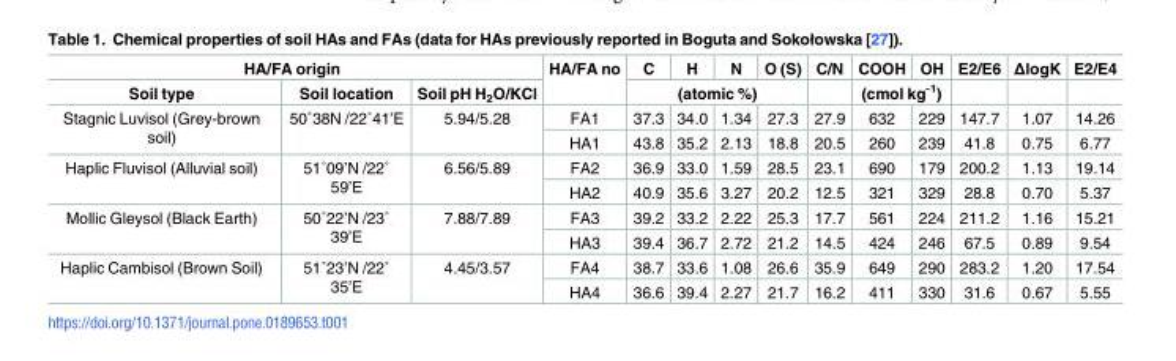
<table><thead><tr><td colspan="3">HA/FA origin</td><td rowspan="2">HA/FA no</td><td>C</td><td>H</td><td>N</td><td>O (S)</td><td rowspan="2">C/N</td><td>COOH</td><td>OH</td><td rowspan="2">E2/E6</td><td rowspan="2">ΔlogK</td><td rowspan="2">E2/E4</td></tr><tr><td>Soil type</td><td>Soil location</td><td>Soil pH H<sub>2</sub>O/KCl</td><td colspan="4">(atomic %)</td><td colspan="2">(cmol kg<sup>-1</sup>)</td></tr></thead><tbody><tr><td rowspan="2">Stagnic Luvisol (Grey-brown soil)</td><td rowspan="2">50˚38N /22˚41’E</td><td rowspan="2">5.94/5.28</td><td>FA1</td><td>37.3</td><td>34.0</td><td>1.34</td><td>27.3</td><td>27.9</td><td>632</td><td>229</td><td>147.7</td><td>1.07</td><td>14.26</td></tr><tr><td>HA1</td><td>43.8</td><td>35.2</td><td>2.13</td><td>18.8</td><td>20.5</td><td>260</td><td>239</td><td>41.8</td><td>0.75</td><td>6.77</td></tr><tr><td rowspan="2">Haplic Fluvisol (Alluvial soil)</td><td rowspan="2">51˚09’N /22˚ 59’E</td><td rowspan="2">6.56/5.89</td><td>FA2</td><td>36.9</td><td>33.0</td><td>1.59</td><td>28.5</td><td>23.1</td><td>690</td><td>179</td><td>200.2</td><td>1.13</td><td>19.14</td></tr><tr><td>HA2</td><td>40.9</td><td>35.6</td><td>3.27</td><td>20.2</td><td>12.5</td><td>321</td><td>329</td><td>28.8</td><td>0.70</td><td>5.37</td></tr><tr><td rowspan="2">Mollic Gleysol (Black Earth)</td><td rowspan="2">50˚22’N /23˚ 39’E</td><td rowspan="2">7.88/7.89</td><td>FA3</td><td>39.2</td><td>33.2</td><td>2.22</td><td>25.3</td><td>17.7</td><td>561</td><td>224</td><td>211.2</td><td>1.16</td><td>15.21</td></tr><tr><td>HA3</td><td>39.4</td><td>36.7</td><td>2.72</td><td>21.2</td><td>14.5</td><td>424</td><td>246</td><td>67.5</td><td>0.89</td><td>9.54</td></tr><tr><td rowspan="2">Haplic Cambisol (Brown Soil)</td><td rowspan="2">51˚23’N /22˚ 35’E</td><td rowspan="2">4.45/3.57</td><td>FA4</td><td>38.7</td><td>33.6</td><td>1.08</td><td>26.6</td><td>35.9</td><td>649</td><td>290</td><td>283.2</td><td>1.20</td><td>17.54</td></tr><tr><td>HA4</td><td>36.6</td><td>39.4</td><td>2.27</td><td>21.7</td><td>16.2</td><td>411</td><td>330</td><td>31.6</td><td>0.67</td><td>5.55</td></tr></tbody></table>